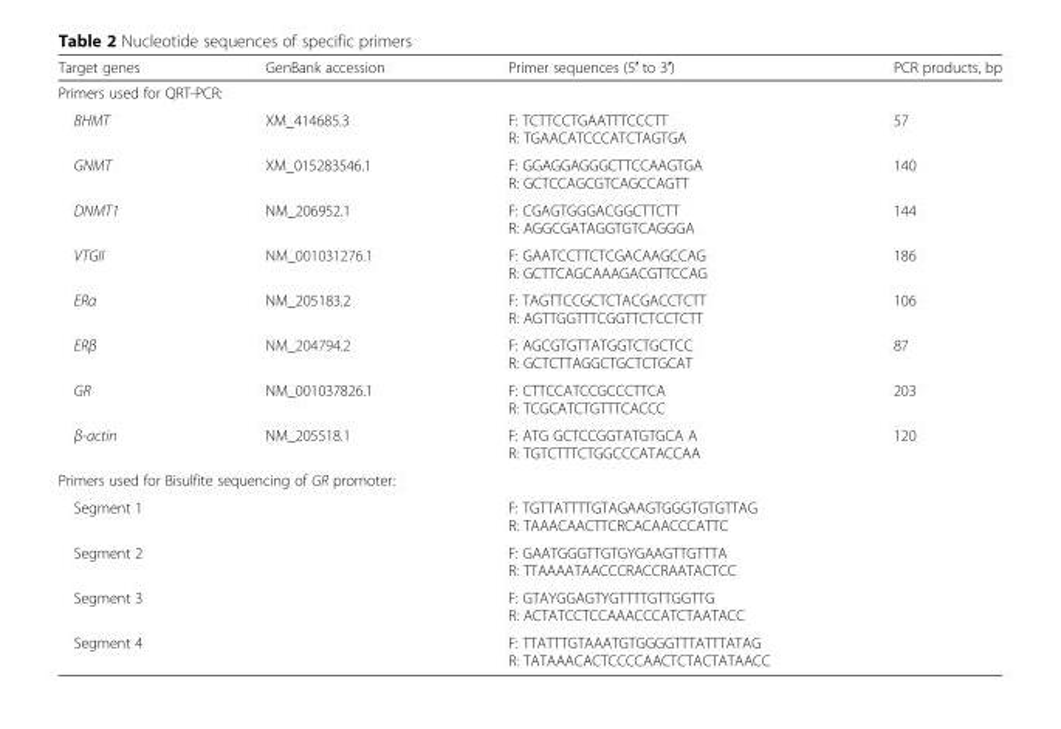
<table><thead><tr><td>Target genes</td><td>GenBank accession</td><td>Primer sequences (5′ to 3′)</td><td>PCR products, bp</td></tr></thead><tbody><tr><td colspan="4">Primers used for QRT-PCR:</td></tr><tr><td>BHMT</td><td>XM_414685.3</td><td>F: TCTTCCTGAATTTCCCTT R: TGAACATCCCATCTAGTGA</td><td>57</td></tr><tr><td>GNMT</td><td>XM_015283546.1</td><td>F: GGAGGAGGGCTTCCAAGTGA R: GCTCCAGCGTCAGCCAGTT</td><td>140</td></tr><tr><td>DNMT1</td><td>NM_206952.1</td><td>F: CGAGTGGGACGGCTTCTT R: AGGCGATAGGTGTCAGGGA</td><td>144</td></tr><tr><td>VTGII</td><td>NM_001031276.1</td><td>F: GAATCCTTCTCGACAAGCCAG R: GCTTCAGCAAAGACGTTCCAG</td><td>186</td></tr><tr><td>ERα</td><td>NM_205183.2</td><td>F: TAGTTCCGCTCTACGACCTCTT R: AGTTGGTTTCGGTTCTCCTCTT</td><td>106</td></tr><tr><td>ERβ</td><td>NM_204794.2</td><td>F: AGCGTGTTATGGTCTGCTCC R: GCTCTTAGGCTGCTCTGCAT</td><td>87</td></tr><tr><td>GR</td><td>NM_001037826.1</td><td>F: CTTCCATCCGCCCTTCA R: TCGCATCTGTTTCACCC</td><td>203</td></tr><tr><td>β-actin</td><td>NM_205518.1</td><td>F: ATG GCTCCGGTATGTGCA A R: TGTCTTTCTGGCCCATACCAA</td><td>120</td></tr><tr><td colspan="4">Primers used for Bisulfite sequencing of GR promoter:</td></tr><tr><td>Segment 1</td><td></td><td>F: TGTTATTTTGTAGAAGTGGGTGTGTTAG R: TAAACAACTTCRCACAACCCATTC</td><td></td></tr><tr><td>Segment 2</td><td></td><td>F: GAATGGGTTGTGYGAAGTTGTTTA R: TTAAAATAACCCRACCRAATACTCC</td><td></td></tr><tr><td>Segment 3</td><td></td><td>F: GTAYGGAGTYGTTTTGTTGGTTG R: ACTATCCTCCAAACCCATCTAATACC</td><td></td></tr><tr><td>Segment 4</td><td></td><td>F: TTATTTGTAAATGTGGGGTTTATTTATAG R: TATAAACACTCCCCAACTCTACTATAACC</td><td></td></tr></tbody></table>